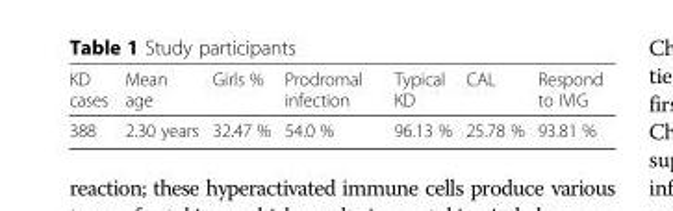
<table><thead><tr><td>KD cases</td><td>Mean age</td><td>Girls %</td><td>Prodromal infection</td><td>Typical KD</td><td>CAL</td><td>Respond to IVIG</td></tr></thead><tbody><tr><td>388</td><td>2.30 years</td><td>32.47 %</td><td>54.0 %</td><td>96.13 %</td><td>25.78 %</td><td>93.81 %</td></tr></tbody></table>